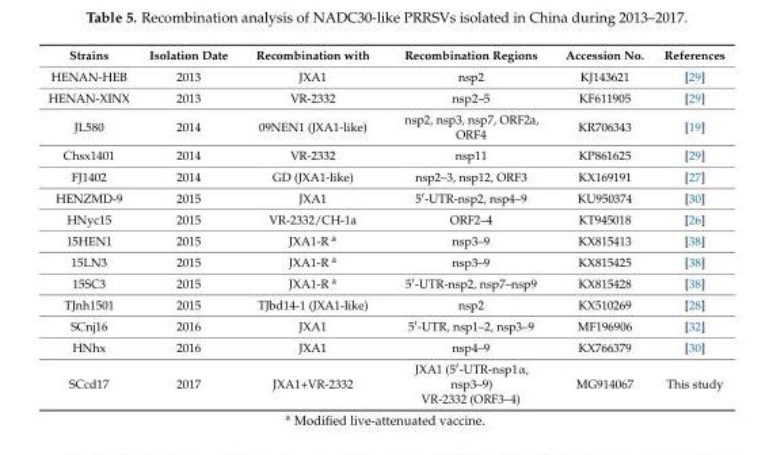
<table><thead><tr><td>Strains</td><td>Isolation Date</td><td>Recombination with</td><td>Recombination Regions</td><td>Accession No.</td><td>References</td></tr></thead><tbody><tr><td>HENAN-HEB</td><td>2013</td><td>JXA1</td><td>nsp2</td><td>KJ143621</td><td>[29]</td></tr><tr><td>HENAN-XINX</td><td>2013</td><td>VR-2332</td><td>nsp2–5</td><td>KF611905</td><td>[29]</td></tr><tr><td>JL580</td><td>2014</td><td>09NEN1 (JXA1-like)</td><td>nsp2, nsp3, nsp7, ORF2a, ORF4</td><td>KR706343</td><td>[19]</td></tr><tr><td>Chsx1401</td><td>2014</td><td>VR-2332</td><td>nsp11</td><td>KP861625</td><td>[29]</td></tr><tr><td>FJ1402</td><td>2014</td><td>GD (JXA1-like)</td><td>nsp2–3, nsp12, ORF3</td><td>KX169191</td><td>[27]</td></tr><tr><td>HENZMD-9</td><td>2015</td><td>JXA1</td><td>5′-UTR-nsp2, nsp4–9</td><td>KU950374</td><td>[30]</td></tr><tr><td>HNyc15</td><td>2015</td><td>VR-2332/CH-1a</td><td>ORF2–4</td><td>KT945018</td><td>[26]</td></tr><tr><td>15HEN1</td><td>2015</td><td>JXA1-R <sup>a</sup></td><td>nsp3–9</td><td>KX815413</td><td>[38]</td></tr><tr><td>15LN3</td><td>2015</td><td>JXA1-R <sup>a</sup></td><td>nsp3–9</td><td>KX815425</td><td>[38]</td></tr><tr><td>15SC3</td><td>2015</td><td>JXA1-R <sup>a</sup></td><td>5′-UTR-nsp2, nsp7–nsp9</td><td>KX815428</td><td>[38]</td></tr><tr><td>TJnh1501</td><td>2015</td><td>TJbd14-1 (JXA1-like)</td><td>nsp2</td><td>KX510269</td><td>[28]</td></tr><tr><td>SCnj16</td><td>2016</td><td>JXA1</td><td>5′-UTR, nsp1–2, nsp3–9</td><td>MF196906</td><td>[32]</td></tr><tr><td>HNhx</td><td>2016</td><td>JXA1</td><td>nsp4–9</td><td>KX766379</td><td>[30]</td></tr><tr><td>SCcd17</td><td>2017</td><td>JXA1+VR-2332</td><td>JXA1 (5′-UTR-nsp1α, nsp3–9) VR-2332 (ORF3–4)</td><td>MG914067</td><td>This study</td></tr></tbody></table>